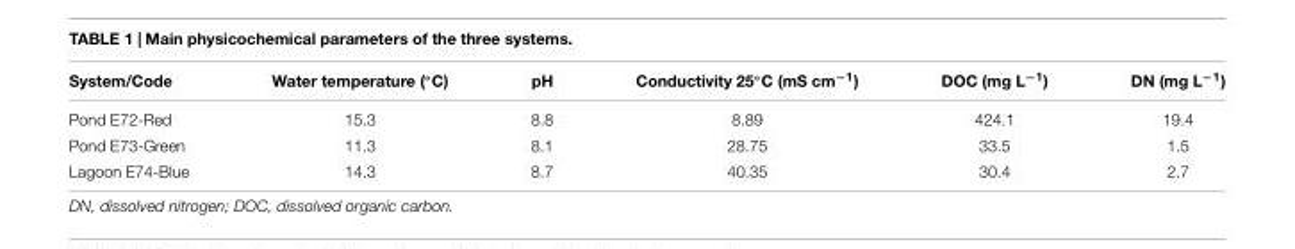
<table><thead><tr><td>System/Code</td><td>Water temperature (◦C)</td><td>pH</td><td>Conductivity 25◦C (mS cm−1)</td><td>DOC (mg L<sup>−1</sup>)</td><td>DN (mg L<sup>−1</sup>)</td></tr></thead><tbody><tr><td>Pond E72-Red</td><td>15.3</td><td>8.8</td><td>8.89</td><td>424.1</td><td>19.4</td></tr><tr><td>Pond E73-Green</td><td>11.3</td><td>8.1</td><td>28.75</td><td>33.5</td><td>1.5</td></tr><tr><td>Lagoon E74-Blue</td><td>14.3</td><td>8.7</td><td>40.35</td><td>30.4</td><td>2.7</td></tr></tbody></table>